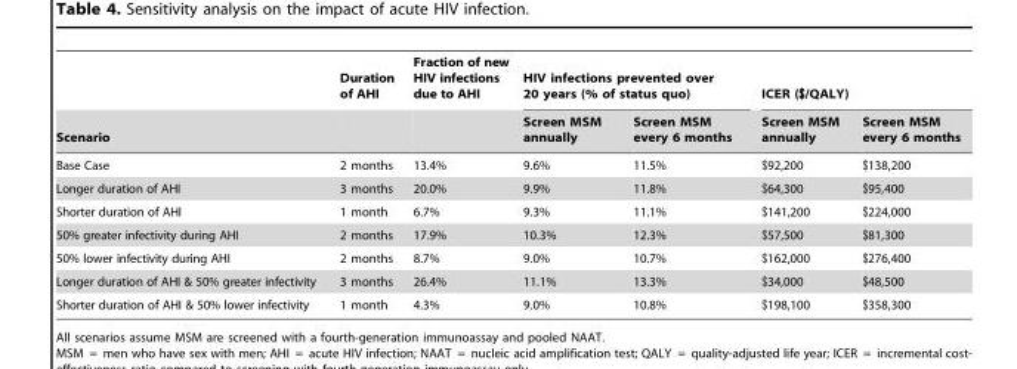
<table><thead><tr><td rowspan="2">Scenario</td><td rowspan="2">Duration of AHI</td><td rowspan="2">Fraction of new HIV infections due to AHI</td><td colspan="2">HIV infections prevented over 20 years (% of status quo)</td><td colspan="2">ICER ($/QALY)</td></tr><tr><td>Screen MSM annually</td><td>Screen MSM every 6 months</td><td>Screen MSM annually</td><td>Screen MSM every 6 months</td></tr></thead><tbody><tr><td>Base Case</td><td>2 months</td><td>13.4%</td><td>9.6%</td><td>11.5%</td><td>$92,200</td><td>$138,200</td></tr><tr><td>Longer duration of AHI</td><td>3 months</td><td>20.0%</td><td>9.9%</td><td>11.8%</td><td>$64,300</td><td>$95,400</td></tr><tr><td>Shorter duration of AHI</td><td>1 month</td><td>6.7%</td><td>9.3%</td><td>11.1%</td><td>$141,200</td><td>$224,000</td></tr><tr><td>50% greater infectivity during AHI</td><td>2 months</td><td>17.9%</td><td>10.3%</td><td>12.3%</td><td>$57,500</td><td>$81,300</td></tr><tr><td>50% lower infectivity during AHI</td><td>2 months</td><td>8.7%</td><td>9.0%</td><td>10.7%</td><td>$162,000</td><td>$276,400</td></tr><tr><td>Longer duration of AHI &amp; 50% greater infectivity</td><td>3 months</td><td>26.4%</td><td>11.1%</td><td>13.3%</td><td>$34,000</td><td>$48,500</td></tr><tr><td>Shorter duration of AHI &amp; 50% lower infectivity</td><td>1 month</td><td>4.3%</td><td>9.0%</td><td>10.8%</td><td>$198,100</td><td>$358,300</td></tr></tbody></table>